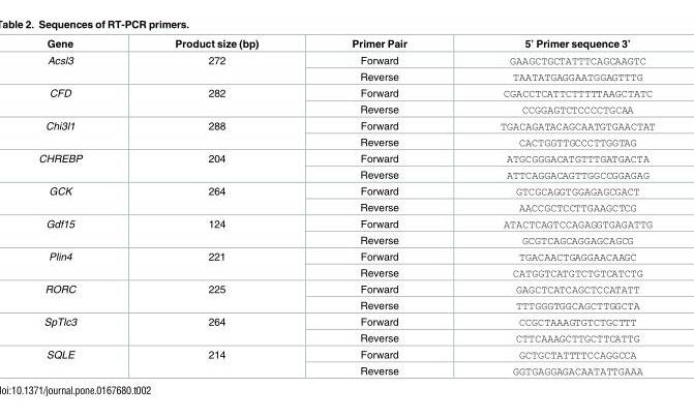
<table><thead><tr><td>Gene</td><td>Product size (bp)</td><td>Primer Pair</td><td>5’ Primer sequence 3’</td></tr></thead><tbody><tr><td rowspan="2">Acsl3</td><td rowspan="2">272</td><td>Forward</td><td>GAAGCTGCTATTTCAGCAAGTC</td></tr><tr><td>Reverse</td><td>TAATATGAGGAATGGAGTTTG</td></tr><tr><td rowspan="2">CFD</td><td rowspan="2">282</td><td>Forward</td><td>CGACCTCATTCTTTTTAAGCTATC</td></tr><tr><td>Reverse</td><td>CCGGAGTCTCCCCTGCAA</td></tr><tr><td rowspan="2">Chi3l1</td><td rowspan="2">288</td><td>Forward</td><td>TGACAGATACAGCAATGTGAACTAT</td></tr><tr><td>Reverse</td><td>CACTGGTTGCCCTTGGTAG</td></tr><tr><td rowspan="2">CHREBP</td><td rowspan="2">204</td><td>Forward</td><td>ATGCGGGACATGTTTGATGACTA</td></tr><tr><td>Reverse</td><td>ATTCAGGACAGTTGGCCGGAGAG</td></tr><tr><td rowspan="2">GCK</td><td rowspan="2">264</td><td>Forward</td><td>GTCGCAGGTGGAGAGCGACT</td></tr><tr><td>Reverse</td><td>AACCGCTCCTTGAAGCTCG</td></tr><tr><td rowspan="2">Gdf15</td><td rowspan="2">124</td><td>Forward</td><td>ATACTCAGTCCAGAGGTGAGATTG</td></tr><tr><td>Reverse</td><td>GCGTCAGCAGGAGCAGCG</td></tr><tr><td rowspan="2">Plin4</td><td rowspan="2">221</td><td>Forward</td><td>TGACAACTGAGGAACAAGC</td></tr><tr><td>Reverse</td><td>CATGGTCATGTCTGTCATCTG</td></tr><tr><td rowspan="2">RORC</td><td rowspan="2">225</td><td>Forward</td><td>GAGCTCATCAGCTCCATATT</td></tr><tr><td>Reverse</td><td>TTTGGGTGGCAGCTTGGCTA</td></tr><tr><td rowspan="2">SpTlc3</td><td rowspan="2">264</td><td>Forward</td><td>CCGCTAAAGTGTCTGCTTT</td></tr><tr><td>Reverse</td><td>CTTCAAAGCTTGCTTCATTG</td></tr><tr><td rowspan="2">SQLE</td><td rowspan="2">214</td><td>Forward</td><td>GCTGCTATTTTCCAGGCCA</td></tr><tr><td>Reverse</td><td>GGTGAGGAGACAATATTGAAA</td></tr></tbody></table>